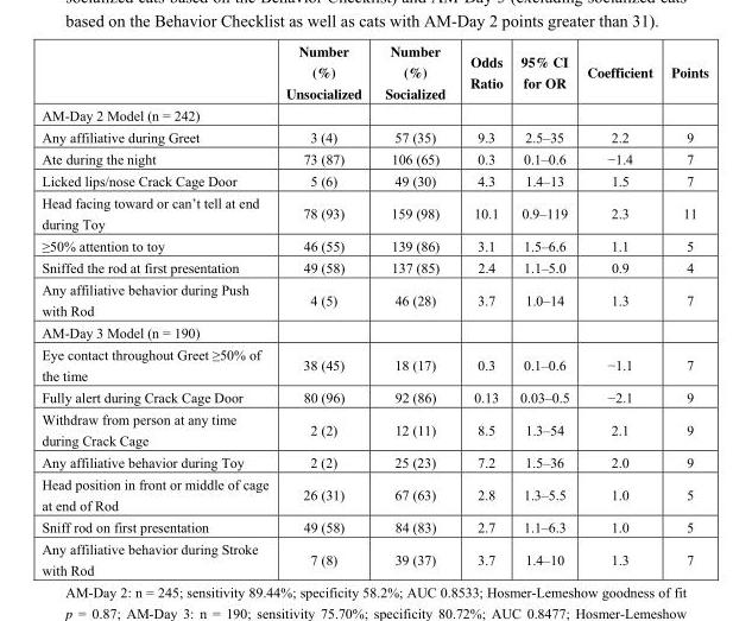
<table><thead><tr><td></td><td>Number (%) Unsocialized</td><td>Number (%) Socialized</td><td>Odds Ratio</td><td>95% CI for OR</td><td>Coefficient</td><td>Points</td></tr></thead><tbody><tr><td colspan="7">AM-Day 2 Model (n = 242)</td></tr><tr><td>Any affiliative during Greet</td><td>3 (4)</td><td>57 (35)</td><td>9.3</td><td>2.5–35</td><td>2.2</td><td>9</td></tr><tr><td>Ate during the night</td><td>73 (87)</td><td>106 (65)</td><td>0.3</td><td>0.1–0.6</td><td>−1.4</td><td>7</td></tr><tr><td>Licked lips/nose Crack Cage Door</td><td>5 (6)</td><td>49 (30)</td><td>4.3</td><td>1.4–13</td><td>1.5</td><td>7</td></tr><tr><td>Head facing toward or can’t tell at end during Toy</td><td>78 (93)</td><td>159 (98)</td><td>10.1</td><td>0.9–119</td><td>2.3</td><td>11</td></tr><tr><td>≥50% attention to toy</td><td>46 (55)</td><td>139 (86)</td><td>3.1</td><td>1.5–6.6</td><td>1.1</td><td>5</td></tr><tr><td>Sniffed the rod at first presentation</td><td>49 (58)</td><td>137 (85)</td><td>2.4</td><td>1.1–5.0</td><td>0.9</td><td>4</td></tr><tr><td>Any affiliative behavior during Push with Rod</td><td>4 (5)</td><td>46 (28)</td><td>3.7</td><td>1.0–14</td><td>1.3</td><td>7</td></tr><tr><td colspan="7">AM-Day 3 Model (n = 190)</td></tr><tr><td>Eye contact throughout Greet ≥50% of the time</td><td>38 (45)</td><td>18 (17)</td><td>0.3</td><td>0.1–0.6</td><td>−1.1</td><td>7</td></tr><tr><td>Fully alert during Crack Cage Door</td><td>80 (96)</td><td>92 (86)</td><td>0.13</td><td>0.03–0.5</td><td>−2.1</td><td>9</td></tr><tr><td>Withdraw from person at any time during Crack Cage</td><td>2 (2)</td><td>12 (11)</td><td>8.5</td><td>1.3–54</td><td>2.1</td><td>9</td></tr><tr><td>Any affiliative behavior during Toy</td><td>2 (2)</td><td>25 (23)</td><td>7.2</td><td>1.5–36</td><td>2.0</td><td>9</td></tr><tr><td>Head position in front or middle of cage at end of Rod</td><td>26 (31)</td><td>67 (63)</td><td>2.8</td><td>1.3–5.5</td><td>1.0</td><td>5</td></tr><tr><td>Sniff rod on first presentation</td><td>49 (58)</td><td>84 (83)</td><td>2.7</td><td>1.1–6.3</td><td>1.0</td><td>5</td></tr><tr><td>Any affiliative behavior during Stroke with Rod</td><td>7 (8)</td><td>39 (37)</td><td>3.7</td><td>1.4–10</td><td>1.3</td><td>7</td></tr></tbody></table>